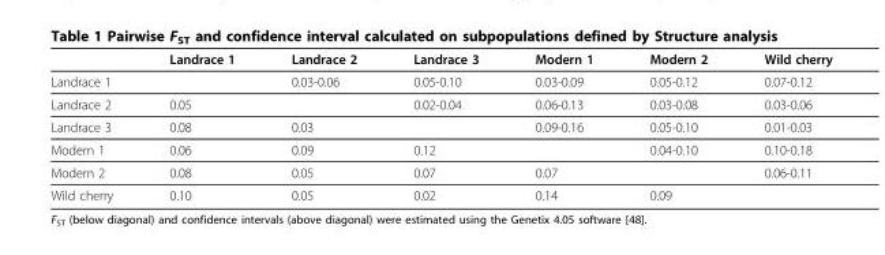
<table><thead><tr><td></td><td>Landrace 1</td><td>Landrace 2</td><td>Landrace 3</td><td>Modern 1</td><td>Modern 2</td><td>Wild cherry</td></tr></thead><tbody><tr><td>Landrace 1</td><td></td><td>0.03-0.06</td><td>0.05-0.10</td><td>0.03-0.09</td><td>0.05-0.12</td><td>0.07-0.12</td></tr><tr><td>Landrace 2</td><td>0.05</td><td></td><td>0.02-0.04</td><td>0.06-0.13</td><td>0.03-0.08</td><td>0.03-0.06</td></tr><tr><td>Landrace 3</td><td>0.08</td><td>0.03</td><td></td><td>0.09-0.16</td><td>0.05-0.10</td><td>0.01-0.03</td></tr><tr><td>Modern 1</td><td>0.06</td><td>0.09</td><td>0.12</td><td></td><td>0.04-0.10</td><td>0.10-0.18</td></tr><tr><td>Modern 2</td><td>0.08</td><td>0.05</td><td>0.07</td><td>0.07</td><td></td><td>0.06-0.11</td></tr><tr><td>Wild cherry</td><td>0.10</td><td>0.05</td><td>0.02</td><td>0.14</td><td>0.09</td><td></td></tr></tbody></table>